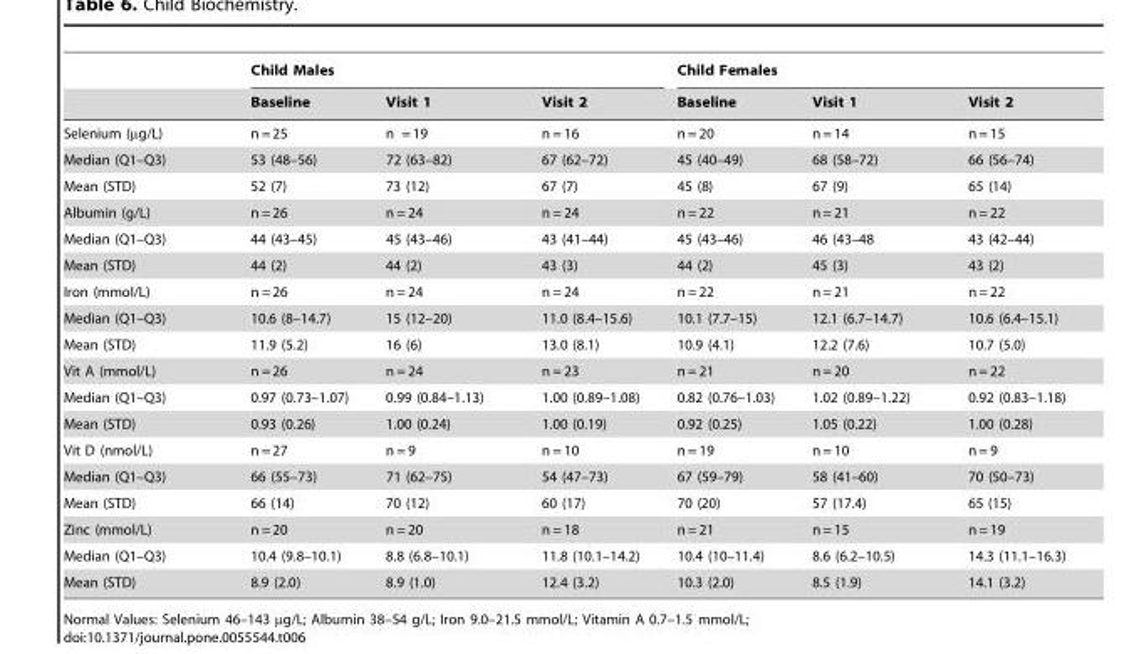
<table><thead><tr><td rowspan="2"></td><td colspan="3">Child Males</td><td colspan="3">Child Females</td></tr><tr><td>Baseline</td><td>Visit 1</td><td>Visit 2</td><td>Baseline</td><td>Visit 1</td><td>Visit 2</td></tr></thead><tbody><tr><td>Selenium (µg/L)</td><td>n = 25</td><td>n = 19</td><td>n = 16</td><td>n = 20</td><td>n = 14</td><td>n = 15</td></tr><tr><td>Median (Q1–Q3)</td><td>53 (48–56)</td><td>72 (63–82)</td><td>67 (62–72)</td><td>45 (40–49)</td><td>68 (58–72)</td><td>66 (56–74)</td></tr><tr><td>Mean (STD)</td><td>52 (7)</td><td>73 (12)</td><td>67 (7)</td><td>45 (8)</td><td>67 (9)</td><td>65 (14)</td></tr><tr><td>Albumin (g/L)</td><td>n = 26</td><td>n = 24</td><td>n = 24</td><td>n = 22</td><td>n = 21</td><td>n = 22</td></tr><tr><td>Median (Q1–Q3)</td><td>44 (43–45)</td><td>45 (43–46)</td><td>43 (41–44)</td><td>45 (43–46)</td><td>46 (43–48</td><td>43 (42–44)</td></tr><tr><td>Mean (STD)</td><td>44 (2)</td><td>44 (2)</td><td>43 (3)</td><td>44 (2)</td><td>45 (3)</td><td>43 (2)</td></tr><tr><td>Iron (mmol/L)</td><td>n = 26</td><td>n = 24</td><td>n = 24</td><td>n = 22</td><td>n = 21</td><td>n = 22</td></tr><tr><td>Median (Q1–Q3)</td><td>10.6 (8–14.7)</td><td>15 (12–20)</td><td>11.0 (8.4–15.6)</td><td>10.1 (7.7–15)</td><td>12.1 (6.7–14.7)</td><td>10.6 (6.4–15.1)</td></tr><tr><td>Mean (STD)</td><td>11.9 (5.2)</td><td>16 (6)</td><td>13.0 (8.1)</td><td>10.9 (4.1)</td><td>12.2 (7.6)</td><td>10.7 (5.0)</td></tr><tr><td>Vit A (mmol/L)</td><td>n = 26</td><td>n = 24</td><td>n = 23</td><td>n = 21</td><td>n = 20</td><td>n = 22</td></tr><tr><td>Median (Q1–Q3)</td><td>0.97 (0.73–1.07)</td><td>0.99 (0.84–1.13)</td><td>1.00 (0.89–1.08)</td><td>0.82 (0.76–1.03)</td><td>1.02 (0.89–1.22)</td><td>0.92 (0.83–1.18)</td></tr><tr><td>Mean (STD)</td><td>0.93 (0.26)</td><td>1.00 (0.24)</td><td>1.00 (0.19)</td><td>0.92 (0.25)</td><td>1.05 (0.22)</td><td>1.00 (0.28)</td></tr><tr><td>Vit D (nmol/L)</td><td>n = 27</td><td>n = 9</td><td>n = 10</td><td>n = 19</td><td>n = 10</td><td>n = 9</td></tr><tr><td>Median (Q1–Q3)</td><td>66 (55–73)</td><td>71 (62–75)</td><td>54 (47–73)</td><td>67 (59–79)</td><td>58 (41–60)</td><td>70 (50–73)</td></tr><tr><td>Mean (STD)</td><td>66 (14)</td><td>70 (12)</td><td>60 (17)</td><td>70 (20)</td><td>57 (17.4)</td><td>65 (15)</td></tr><tr><td>Zinc (mmol/L)</td><td>n = 20</td><td>n = 20</td><td>n = 18</td><td>n = 21</td><td>n = 15</td><td>n = 19</td></tr><tr><td>Median (Q1–Q3)</td><td>10.4 (9.8–10.1)</td><td>8.8 (6.8–10.1)</td><td>11.8 (10.1–14.2)</td><td>10.4 (10–11.4)</td><td>8.6 (6.2–10.5)</td><td>14.3 (11.1–16.3)</td></tr><tr><td>Mean (STD)</td><td>8.9 (2.0)</td><td>8.9 (1.0)</td><td>12.4 (3.2)</td><td>10.3 (2.0)</td><td>8.5 (1.9)</td><td>14.1 (3.2)</td></tr></tbody></table>